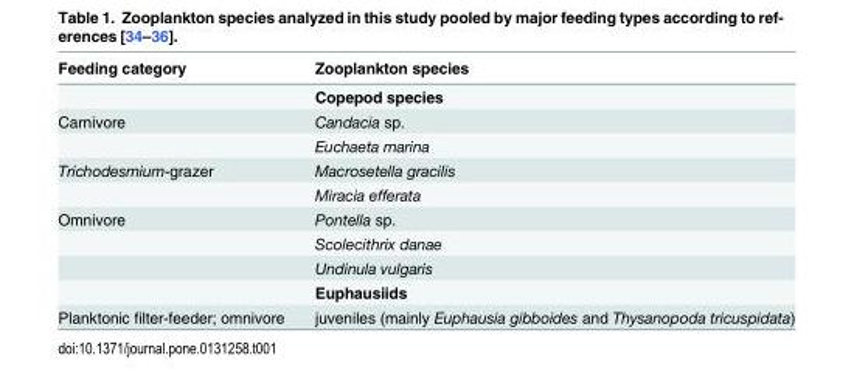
<table><thead><tr><td>Feeding category</td><td>Zooplankton species</td></tr></thead><tbody><tr><td></td><td>Copepod species</td></tr><tr><td rowspan="2">Carnivore</td><td>Candacia sp.</td></tr><tr><td>Euchaeta marina</td></tr><tr><td rowspan="2">Trichodesmium-grazer</td><td>Macrosetella gracilis</td></tr><tr><td>Miracia efferata</td></tr><tr><td rowspan="4">Omnivore</td><td>Pontella sp.</td></tr><tr><td>Scolecithrix danae</td></tr><tr><td>Undinula vulgaris</td></tr><tr><td>Euphausiids</td></tr><tr><td>Planktonic filter-feeder; omnivore</td><td>juveniles (mainly Euphausia gibboides and Thysanopoda tricuspidata)</td></tr></tbody></table>